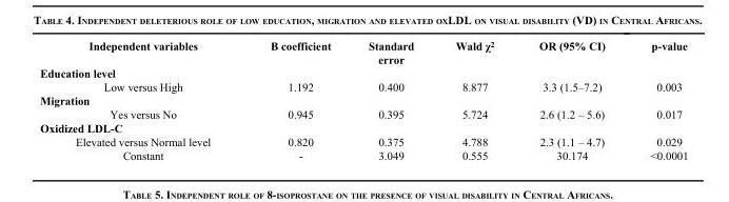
<table><thead><tr><td>Independent variables</td><td>B coefficient</td><td>Standard error</td><td>Wald χ<sup>2</sup></td><td>OR (95% CI)</td><td>p-value</td></tr></thead><tbody><tr><td colspan="6">Education level</td></tr><tr><td>Low versus High</td><td>1.192</td><td>0.400</td><td>8.877</td><td>3.3 (1.5–7.2)</td><td>0.003</td></tr><tr><td colspan="6">Migration</td></tr><tr><td>Yes versus No</td><td>0.945</td><td>0.395</td><td>5.724</td><td>2.6 (1.2 – 5.6)</td><td>0.017</td></tr><tr><td colspan="6">Oxidized LDL-C</td></tr><tr><td>Elevated versus Normal level</td><td>0.820</td><td>0.375</td><td>4.788</td><td>2.3 (1.1 – 4.7)</td><td>0.029</td></tr><tr><td>Constant</td><td>-</td><td>3.049</td><td>0.555</td><td>30.174</td><td>&lt;0.0001</td></tr></tbody></table>